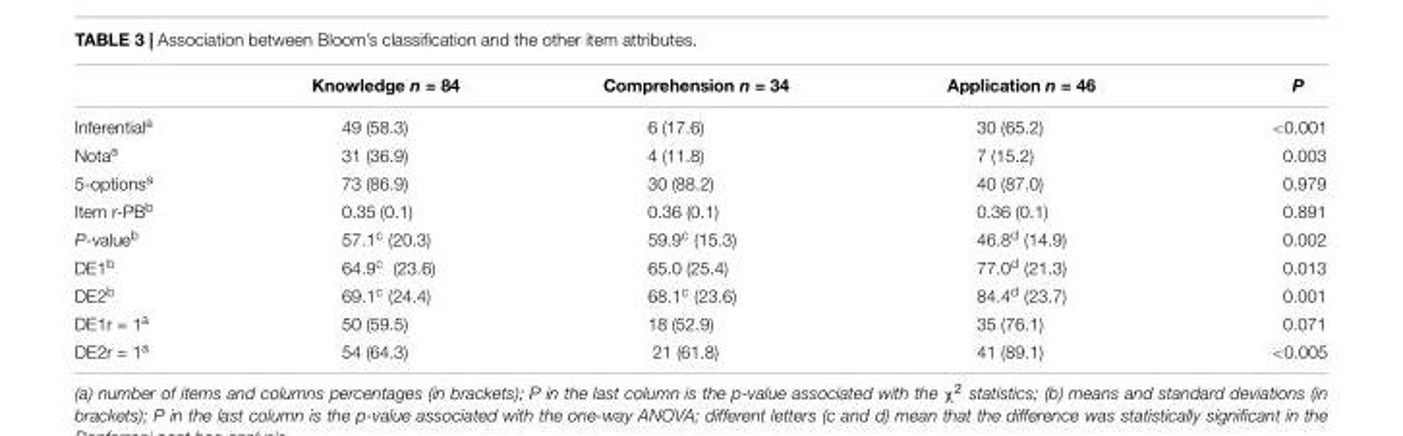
<table><thead><tr><td></td><td>Knowledge n = 84</td><td>Comprehension n = 34</td><td>Application n = 46</td><td>P</td></tr></thead><tbody><tr><td>Inferential<sup>a</sup></td><td>49 (58.3)</td><td>6 (17.6)</td><td>30 (65.2)</td><td>&lt;0.001</td></tr><tr><td>Nota<sup>a</sup></td><td>31 (36.9)</td><td>4 (11.8)</td><td>7 (15.2)</td><td>0.003</td></tr><tr><td>5-options<sup>a</sup></td><td>73 (86.9)</td><td>30 (88.2)</td><td>40 (87.0)</td><td>0.979</td></tr><tr><td>Item r-PB<sup>b</sup></td><td>0.35 (0.1)</td><td>0.36 (0.1)</td><td>0.36 (0.1)</td><td>0.891</td></tr><tr><td>P-value<sup>b</sup></td><td>57.1<sup>c</sup> (20.3)</td><td>59.9<sup>c</sup> (15.3)</td><td>46.8<sup>d</sup> (14.9)</td><td>0.002</td></tr><tr><td>DE1<sup>b</sup></td><td>64.9<sup>c</sup> (23.6)</td><td>65.0 (25.4)</td><td>77.0<sup>d</sup> (21.3)</td><td>0.013</td></tr><tr><td>DE2<sup>b</sup></td><td>69.1<sup>c</sup> (24.4)</td><td>68.1<sup>c</sup> (23.6)</td><td>84.4<sup>d</sup> (23.7)</td><td>0.001</td></tr><tr><td>DE1r = 1<sup>a</sup></td><td>50 (59.5)</td><td>18 (52.9)</td><td>35 (76.1)</td><td>0.071</td></tr><tr><td>DE2r = 1<sup>a</sup></td><td>54 (64.3)</td><td>21 (61.8)</td><td>41 (89.1)</td><td>&lt;0.005</td></tr></tbody></table>